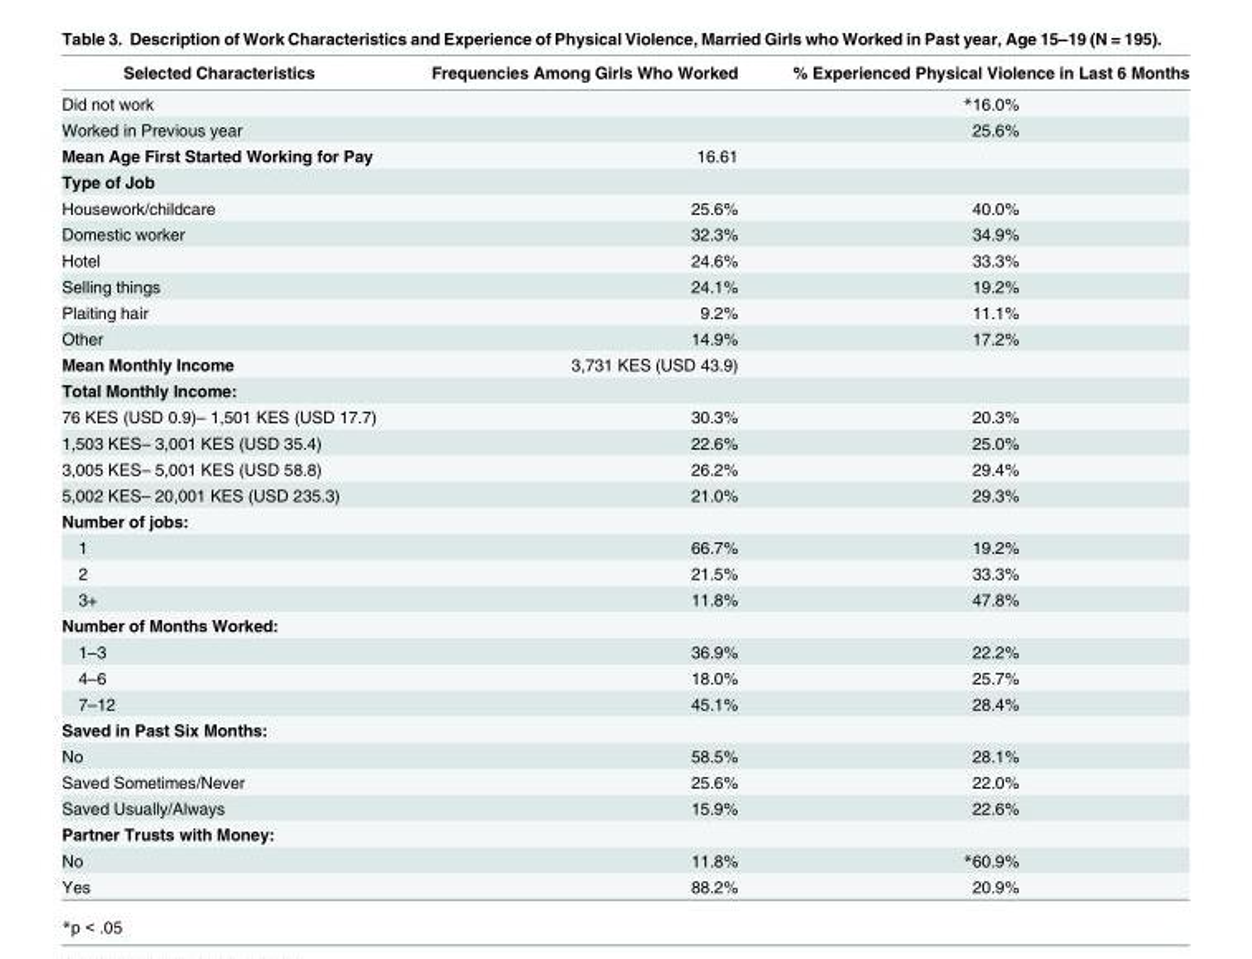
<table><thead><tr><td>Selected Characteristics</td><td>Frequencies Among Girls Who Worked</td><td>% Experienced Physical Violence in Last 6 Months</td></tr></thead><tbody><tr><td>Did not work</td><td></td><td>*16.0%</td></tr><tr><td>Worked in Previous year</td><td></td><td>25.6%</td></tr><tr><td>Mean Age First Started Working for Pay</td><td>16.61</td><td></td></tr><tr><td colspan="3">Type of Job</td></tr><tr><td>Housework/childcare</td><td>25.6%</td><td>40.0%</td></tr><tr><td>Domestic worker</td><td>32.3%</td><td>34.9%</td></tr><tr><td>Hotel</td><td>24.6%</td><td>33.3%</td></tr><tr><td>Selling things</td><td>24.1%</td><td>19.2%</td></tr><tr><td>Plaiting hair</td><td>9.2%</td><td>11.1%</td></tr><tr><td>Other</td><td>14.9%</td><td>17.2%</td></tr><tr><td>Mean Monthly Income</td><td>3,731 KES (USD 43.9)</td><td></td></tr><tr><td colspan="3">Total Monthly Income:</td></tr><tr><td>76 KES (USD 0.9)– 1,501 KES (USD 17.7)</td><td>30.3%</td><td>20.3%</td></tr><tr><td>1,503 KES– 3,001 KES (USD 35.4)</td><td>22.6%</td><td>25.0%</td></tr><tr><td>3,005 KES– 5,001 KES (USD 58.8)</td><td>26.2%</td><td>29.4%</td></tr><tr><td>5,002 KES– 20,001 KES (USD 235.3)</td><td>21.0%</td><td>29.3%</td></tr><tr><td colspan="3">Number of jobs:</td></tr><tr><td>1</td><td>66.7%</td><td>19.2%</td></tr><tr><td>2</td><td>21.5%</td><td>33.3%</td></tr><tr><td>3+</td><td>11.8%</td><td>47.8%</td></tr><tr><td colspan="3">Number of Months Worked:</td></tr><tr><td>1–3</td><td>36.9%</td><td>22.2%</td></tr><tr><td>4–6</td><td>18.0%</td><td>25.7%</td></tr><tr><td>7–12</td><td>45.1%</td><td>28.4%</td></tr><tr><td colspan="3">Saved in Past Six Months:</td></tr><tr><td>No</td><td>58.5%</td><td>28.1%</td></tr><tr><td>Saved Sometimes/Never</td><td>25.6%</td><td>22.0%</td></tr><tr><td>Saved Usually/Always</td><td>15.9%</td><td>22.6%</td></tr><tr><td colspan="3">Partner Trusts with Money:</td></tr><tr><td>No</td><td>11.8%</td><td>*60.9%</td></tr><tr><td>Yes</td><td>88.2%</td><td>20.9%</td></tr></tbody></table>